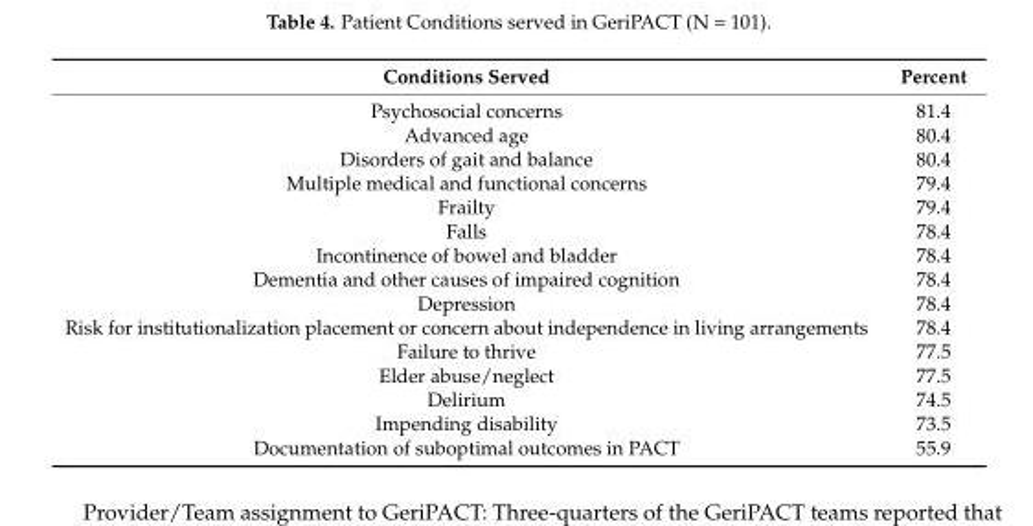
<table><thead><tr><td>Conditions Served</td><td>Percent</td></tr></thead><tbody><tr><td>Psychosocial concerns</td><td>81.4</td></tr><tr><td>Advanced age</td><td>80.4</td></tr><tr><td>Disorders of gait and balance</td><td>80.4</td></tr><tr><td>Multiple medical and functional concerns</td><td>79.4</td></tr><tr><td>Frailty</td><td>79.4</td></tr><tr><td>Falls</td><td>78.4</td></tr><tr><td>Incontinence of bowel and bladder</td><td>78.4</td></tr><tr><td>Dementia and other causes of impaired cognition</td><td>78.4</td></tr><tr><td>Depression</td><td>78.4</td></tr><tr><td>Risk for institutionalization placement or concern about independence in living arrangements</td><td>78.4</td></tr><tr><td>Failure to thrive</td><td>77.5</td></tr><tr><td>Elder abuse/neglect</td><td>77.5</td></tr><tr><td>Delirium</td><td>74.5</td></tr><tr><td>Impending disability</td><td>73.5</td></tr><tr><td>Documentation of suboptimal outcomes in PACT</td><td>55.9</td></tr></tbody></table>